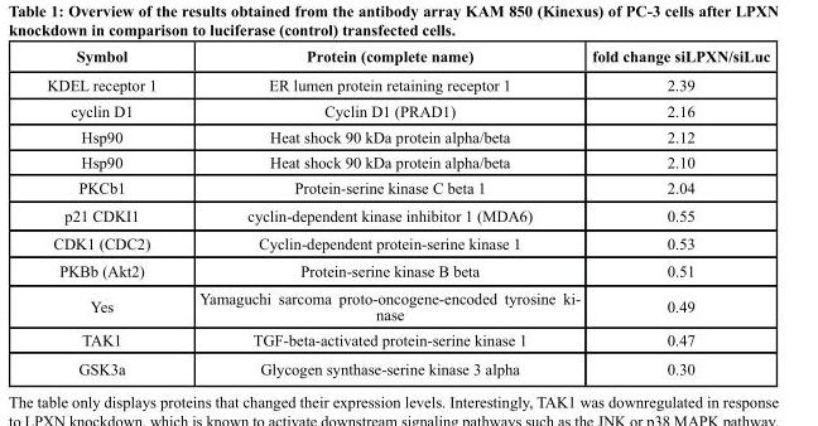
<table><thead><tr><td>symbol</td><td>Protein (complete name)</td><td>fold change silPXn/siluc</td></tr></thead><tbody><tr><td>KDEL receptor 1</td><td>ER lumen protein retaining receptor 1</td><td>2.39</td></tr><tr><td>cyclin D1</td><td>Cyclin D1 (PRAD1)</td><td>2.16</td></tr><tr><td>Hsp90</td><td>Heat shock 90 kDa protein alpha/beta</td><td>2.12</td></tr><tr><td>Hsp90</td><td>Heat shock 90 kDa protein alpha/beta</td><td>2.10</td></tr><tr><td>PKCb1</td><td>Protein-serine kinase C beta 1</td><td>2.04</td></tr><tr><td>p21 CDKI1</td><td>cyclin-dependent kinase inhibitor 1 (MDA6)</td><td>0.55</td></tr><tr><td>CDK1 (CDC2)</td><td>Cyclin-dependent protein-serine kinase 1</td><td>0.53</td></tr><tr><td>PKBb (Akt2)</td><td>Protein-serine kinase B beta</td><td>0.51</td></tr><tr><td>Yes</td><td>Yamaguchi sarcoma proto-oncogene-encoded tyrosine ki- nase</td><td>0.49</td></tr><tr><td>TAK1</td><td>TGF-beta-activated protein-serine kinase 1</td><td>0.47</td></tr><tr><td>GSK3a</td><td>Glycogen synthase-serine kinase 3 alpha</td><td>0.30</td></tr></tbody></table>